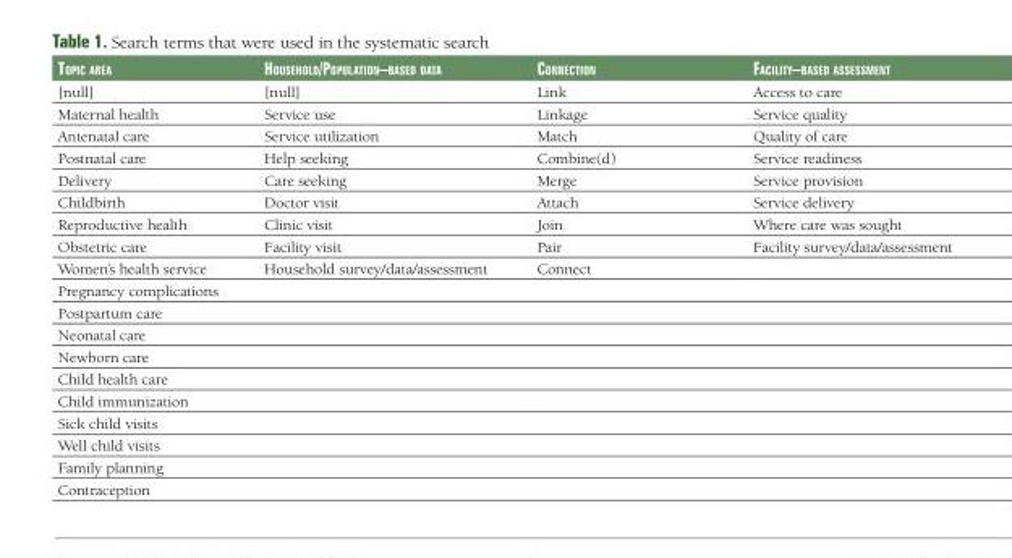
<table><thead><tr><td>Topic area</td><td>HouseHold/populaTion–based daTa</td><td>connecTion</td><td>FaciliTy–based assessmenT</td></tr></thead><tbody><tr><td>[null]</td><td>[null]</td><td>Link</td><td>Access to care</td></tr><tr><td>Maternal health</td><td>Service use</td><td>Linkage</td><td>Service quality</td></tr><tr><td>Antenatal care</td><td>Service utilization</td><td>Match</td><td>Quality of care</td></tr><tr><td>Postnatal care</td><td>Help seeking</td><td>Combine(d)</td><td>Service readiness</td></tr><tr><td>Delivery</td><td>Care seeking</td><td>Merge</td><td>Service provision</td></tr><tr><td>Childbirth</td><td>Doctor visit</td><td>Attach</td><td>Service delivery</td></tr><tr><td>Reproductive health</td><td>Clinic visit</td><td>Join</td><td>Where care was sought</td></tr><tr><td>Obstetric care</td><td>Facility visit</td><td>Pair</td><td>Facility survey/data/assessment</td></tr><tr><td>Women’s health service</td><td>Household survey/data/assessment</td><td>Connect</td><td></td></tr><tr><td colspan="4">Pregnancy complications</td></tr><tr><td colspan="4">Postpartum care</td></tr><tr><td colspan="4">Neonatal care</td></tr><tr><td colspan="4">Newborn care</td></tr><tr><td colspan="4">Child health care</td></tr><tr><td colspan="4">Child immunization</td></tr><tr><td colspan="4">Sick child visits</td></tr><tr><td colspan="4">Well child visits</td></tr><tr><td colspan="4">Family planning</td></tr><tr><td>Contraception</td><td></td><td></td><td></td></tr></tbody></table>